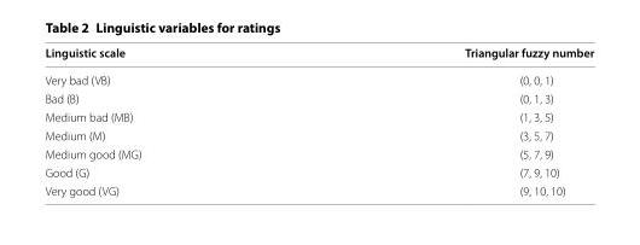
<table><thead><tr><td>Linguistic scale</td><td>Triangular fuzzy number</td></tr></thead><tbody><tr><td>Very bad (VB)</td><td>(0, 0, 1)</td></tr><tr><td>Bad (B)</td><td>(0, 1, 3)</td></tr><tr><td>Medium bad (MB)</td><td>(1, 3, 5)</td></tr><tr><td>Medium (M)</td><td>(3, 5, 7)</td></tr><tr><td>Medium good (MG)</td><td>(5, 7, 9)</td></tr><tr><td>Good (G)</td><td>(7, 9, 10)</td></tr><tr><td>Very good (VG)</td><td>(9, 10, 10)</td></tr></tbody></table>